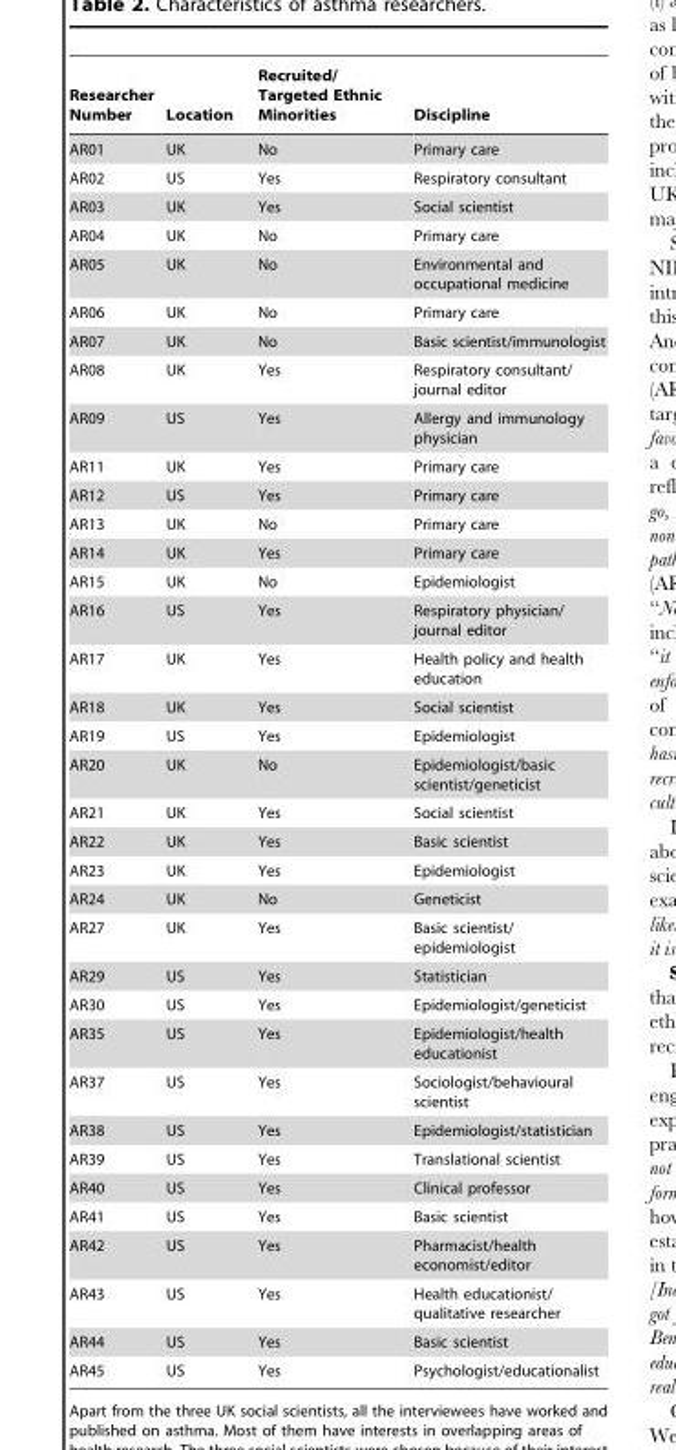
<table><thead><tr><td>Researcher Number</td><td>Location</td><td>Recruited/ Targeted Ethnic Minorities</td><td>Discipline</td></tr></thead><tbody><tr><td>AR01</td><td>UK</td><td>No</td><td>Primary care</td></tr><tr><td>AR02</td><td>US</td><td>Yes</td><td>Respiratory consultant</td></tr><tr><td>AR03</td><td>UK</td><td>Yes</td><td>Social scientist</td></tr><tr><td>AR04</td><td>UK</td><td>No</td><td>Primary care</td></tr><tr><td>AR05</td><td>UK</td><td>No</td><td>Environmental and occupational medicine</td></tr><tr><td>AR06</td><td>UK</td><td>No</td><td>Primary care</td></tr><tr><td>AR07</td><td>UK</td><td>No</td><td>Basic scientist/immunologist</td></tr><tr><td>AR08</td><td>UK</td><td>Yes</td><td>Respiratory consultant/ journal editor</td></tr><tr><td>AR09</td><td>US</td><td>Yes</td><td>Allergy and immunology physician</td></tr><tr><td>AR11</td><td>UK</td><td>Yes</td><td>Primary care</td></tr><tr><td>AR12</td><td>US</td><td>Yes</td><td>Primary care</td></tr><tr><td>AR13</td><td>UK</td><td>No</td><td>Primary care</td></tr><tr><td>AR14</td><td>UK</td><td>Yes</td><td>Primary care</td></tr><tr><td>AR15</td><td>UK</td><td>No</td><td>Epidemiologist</td></tr><tr><td>AR16</td><td>US</td><td>Yes</td><td>Respiratory physician/ journal editor</td></tr><tr><td>AR17</td><td>UK</td><td>Yes</td><td>Health policy and health education</td></tr><tr><td>AR18</td><td>UK</td><td>Yes</td><td>Social scientist</td></tr><tr><td>AR19</td><td>US</td><td>Yes</td><td>Epidemiologist</td></tr><tr><td>AR20</td><td>UK</td><td>No</td><td>Epidemiologist/basic scientist/geneticist</td></tr><tr><td>AR21</td><td>UK</td><td>Yes</td><td>Social scientist</td></tr><tr><td>AR22</td><td>UK</td><td>Yes</td><td>Basic scientist</td></tr><tr><td>AR23</td><td>UK</td><td>Yes</td><td>Epidemiologist</td></tr><tr><td>AR24</td><td>UK</td><td>No</td><td>Geneticist</td></tr><tr><td>AR27</td><td>UK</td><td>Yes</td><td>Basic scientist/ epidemiologist</td></tr><tr><td>AR29</td><td>US</td><td>Yes</td><td>Statistician</td></tr><tr><td>AR30</td><td>US</td><td>Yes</td><td>Epidemiologist/geneticist</td></tr><tr><td>AR35</td><td>US</td><td>Yes</td><td>Epidemiologist/health educationist</td></tr><tr><td>AR37</td><td>US</td><td>Yes</td><td>Sociologist/behavioural scientist</td></tr><tr><td>AR38</td><td>US</td><td>Yes</td><td>Epidemiologist/statistician</td></tr><tr><td>AR39</td><td>US</td><td>Yes</td><td>Translational scientist</td></tr><tr><td>AR40</td><td>US</td><td>Yes</td><td>Clinical professor</td></tr><tr><td>AR41</td><td>US</td><td>Yes</td><td>Basic scientist</td></tr><tr><td>AR42</td><td>US</td><td>Yes</td><td>Pharmacist/health economist/editor</td></tr><tr><td>AR43</td><td>US</td><td>Yes</td><td>Health educationist/ qualitative researcher</td></tr><tr><td>AR44</td><td>US</td><td>Yes</td><td>Basic scientist</td></tr><tr><td>AR45</td><td>US</td><td>Yes</td><td>Psychologist/educationalist</td></tr></tbody></table>